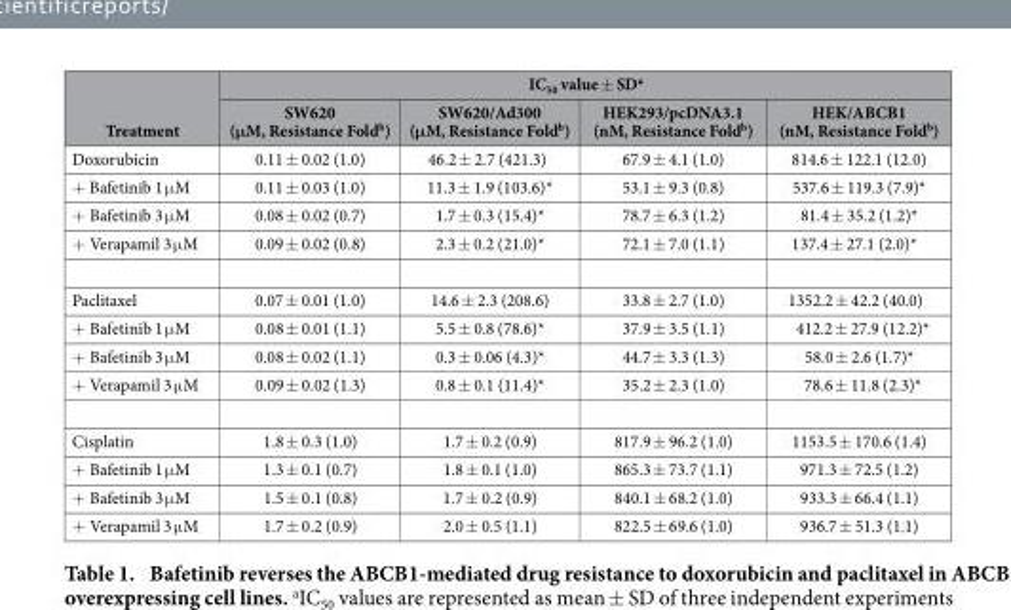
<table><thead><tr><td rowspan="2">Treatment</td><td colspan="4">IC<sub>50</sub> value ± SD<sup>a</sup></td></tr><tr><td>SW620 (μM, Resistance Fold<sup>b</sup>)</td><td>SW620/Ad300 (μM, Resistance Fold<sup>b</sup>)</td><td>HEK293/pcDNA3.1 (nM, Resistance Fold<sup>b</sup>)</td><td>HEK/ABCB1 (nM, Resistance Fold<sup>b</sup>)</td></tr></thead><tbody><tr><td>Doxorubicin</td><td>0.11 ± 0.02 (1.0)</td><td>46.2 ± 2.7 (421.3)</td><td>67.9 ± 4.1 (1.0)</td><td>814.6 ± 122.1 (12.0)</td></tr><tr><td>+ Bafetinib 1 μ M</td><td>0.11 ± 0.03 (1.0)</td><td>11.3 ± 1.9 (103.6)*</td><td>53.1 ± 9.3 (0.8)</td><td>537.6 ± 119.3 (7.9)*</td></tr><tr><td>+ Bafetinib 3 μ M</td><td>0.08 ± 0.02 (0.7)</td><td>1.7 ± 0.3 (15.4)*</td><td>78.7 ± 6.3 (1.2)</td><td>81.4 ± 35.2 (1.2)*</td></tr><tr><td>+ Verapamil 3 μ M</td><td>0.09 ± 0.02 (0.8)</td><td>2.3 ± 0.2 (21.0)*</td><td>72.1 ± 7.0 (1.1)</td><td>137.4 ± 27.1 (2.0)*</td></tr><tr><td>Paclitaxel</td><td>0.07 ± 0.01 (1.0)</td><td>14.6 ± 2.3 (208.6)</td><td>33.8 ± 2.7 (1.0)</td><td>1352.2 ± 42.2 (40.0)</td></tr><tr><td>+ Bafetinib 1 μ M</td><td>0.08 ± 0.01 (1.1)</td><td>5.5 ± 0.8 (78.6)*</td><td>37.9 ± 3.5 (1.1)</td><td>412.2 ± 27.9 (12.2)*</td></tr><tr><td>+ Bafetinib 3 μ M</td><td>0.08 ± 0.02 (1.1)</td><td>0.3 ± 0.06 (4.3)*</td><td>44.7 ± 3.3 (1.3)</td><td>58.0 ± 2.6 (1.7)*</td></tr><tr><td>+ Verapamil 3 μ M</td><td>0.09 ± 0.02 (1.3)</td><td>0.8 ± 0.1 (11.4)*</td><td>35.2 ± 2.3 (1.0)</td><td>78.6 ± 11.8 (2.3)*</td></tr><tr><td>Cisplatin</td><td>1.8 ± 0.3 (1.0)</td><td>1.7 ± 0.2 (0.9)</td><td>817.9 ± 96.2 (1.0)</td><td>1153.5 ± 170.6 (1.4)</td></tr><tr><td>+ Bafetinib 1 μ M</td><td>1.3 ± 0.1 (0.7)</td><td>1.8 ± 0.1 (1.0)</td><td>865.3 ± 73.7 (1.1)</td><td>971.3 ± 72.5 (1.2)</td></tr><tr><td>+ Bafetinib 3 μ M</td><td>1.5 ± 0.1 (0.8)</td><td>1.7 ± 0.2 (0.9)</td><td>840.1 ± 68.2 (1.0)</td><td>933.3 ± 66.4 (1.1)</td></tr><tr><td>+ Verapamil 3 μ M</td><td>1.7 ± 0.2 (0.9)</td><td>2.0 ± 0.5 (1.1)</td><td>822.5 ± 69.6 (1.0)</td><td>936.7 ± 51.3 (1.1)</td></tr></tbody></table>